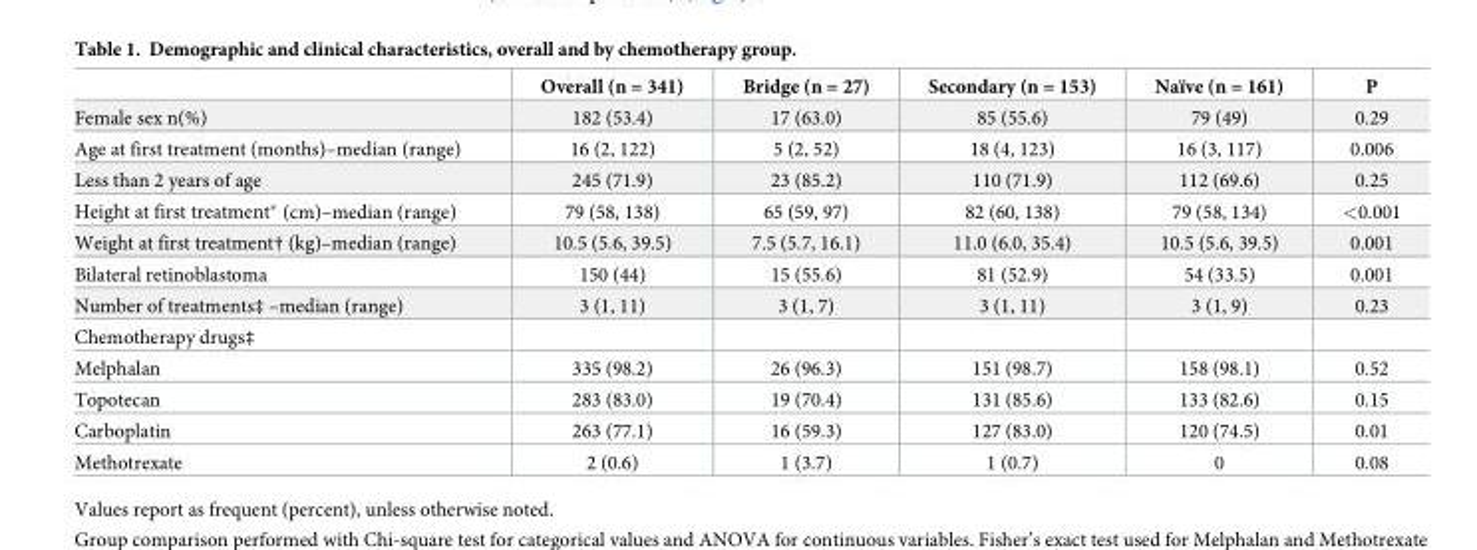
<table><thead><tr><td></td><td>Overall (n = 341)</td><td>Bridge (n = 27)</td><td>Secondary (n = 153)</td><td>Naïve (n = 161)</td><td>P</td></tr></thead><tbody><tr><td>Female sex n(%)</td><td>182 (53.4)</td><td>17 (63.0)</td><td>85 (55.6)</td><td>79 (49)</td><td>0.29</td></tr><tr><td>Age at first treatment (months)–median (range)</td><td>16 (2, 122)</td><td>5 (2, 52)</td><td>18 (4, 123)</td><td>16 (3, 117)</td><td>0.006</td></tr><tr><td>Less than 2 years of age</td><td>245 (71.9)</td><td>23 (85.2)</td><td>110 (71.9)</td><td>112 (69.6)</td><td>0.25</td></tr><tr><td>Height at first treatment* (cm)–median (range)</td><td>79 (58, 138)</td><td>65 (59, 97)</td><td>82 (60, 138)</td><td>79 (58, 134)</td><td>&lt;0.001</td></tr><tr><td>Weight at first treatment† (kg)–median (range)</td><td>10.5 (5.6, 39.5)</td><td>7.5 (5.7, 16.1)</td><td>11.0 (6.0, 35.4)</td><td>10.5 (5.6, 39.5)</td><td>0.001</td></tr><tr><td>Bilateral retinoblastoma</td><td>150 (44)</td><td>15 (55.6)</td><td>81 (52.9)</td><td>54 (33.5)</td><td>0.001</td></tr><tr><td>Number of treatments‡ –median (range)</td><td>3 (1, 11)</td><td>3 (1, 7)</td><td>3 (1, 11)</td><td>3 (1, 9)</td><td>0.23</td></tr><tr><td colspan="6">Chemotherapy drugs‡</td></tr><tr><td>Melphalan</td><td>335 (98.2)</td><td>26 (96.3)</td><td>151 (98.7)</td><td>158 (98.1)</td><td>0.52</td></tr><tr><td>Topotecan</td><td>283 (83.0)</td><td>19 (70.4)</td><td>131 (85.6)</td><td>133 (82.6)</td><td>0.15</td></tr><tr><td>Carboplatin</td><td>263 (77.1)</td><td>16 (59.3)</td><td>127 (83.0)</td><td>120 (74.5)</td><td>0.01</td></tr><tr><td>Methotrexate</td><td>2 (0.6)</td><td>1 (3.7)</td><td>1 (0.7)</td><td>0</td><td>0.08</td></tr></tbody></table>